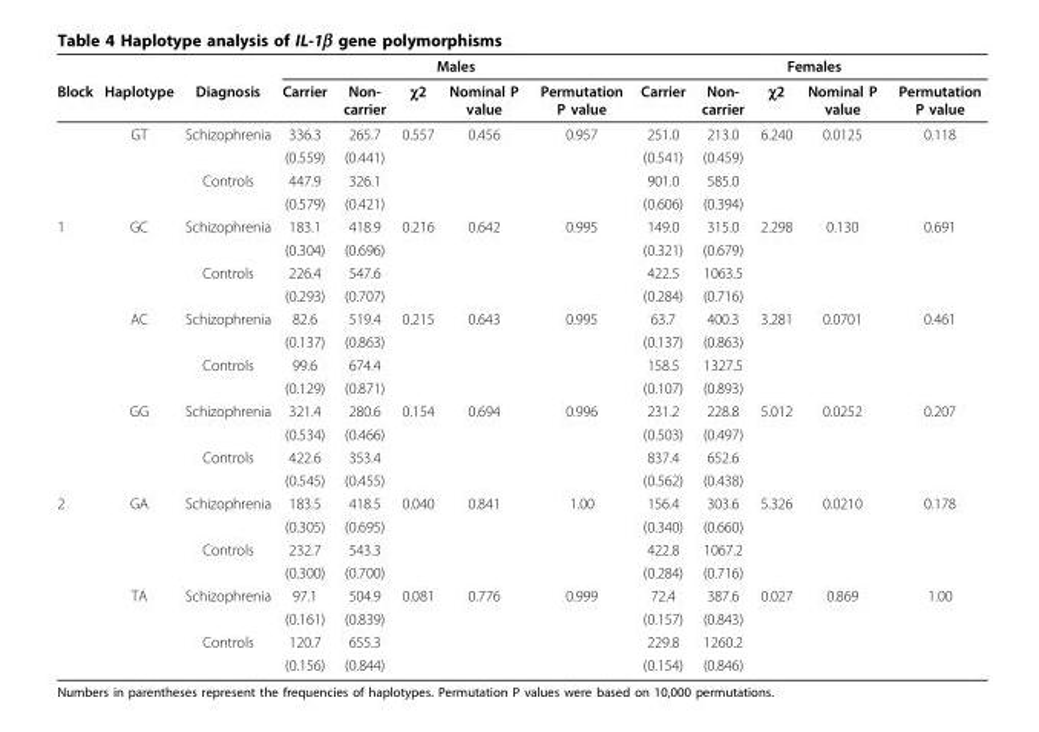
<table><thead><tr><td rowspan="2">Block</td><td rowspan="2">Haplotype</td><td rowspan="2">Diagnosis</td><td colspan="5">Males</td><td colspan="5">Females</td></tr><tr><td>Carrier</td><td>Non- carrier</td><td>χ2</td><td>Nominal P value</td><td>Permutation P value</td><td>Carrier</td><td>Non- carrier</td><td>χ2</td><td>Nominal P value</td><td>Permutation P value</td></tr></thead><tbody><tr><td></td><td>GT</td><td>Schizophrenia</td><td>336.3</td><td>265.7</td><td>0.557</td><td>0.456</td><td>0.957</td><td>251.0</td><td>213.0</td><td>6.240</td><td>0.0125</td><td>0.118</td></tr><tr><td></td><td></td><td></td><td>(0.559)</td><td>(0.441)</td><td></td><td></td><td></td><td>(0.541)</td><td>(0.459)</td><td></td><td></td><td></td></tr><tr><td></td><td></td><td>Controls</td><td>447.9</td><td>326.1</td><td></td><td></td><td></td><td>901.0</td><td>585.0</td><td></td><td></td><td></td></tr><tr><td></td><td></td><td></td><td>(0.579)</td><td>(0.421)</td><td></td><td></td><td></td><td>(0.606)</td><td>(0.394)</td><td></td><td></td><td></td></tr><tr><td rowspan="12">1</td><td>GC</td><td>Schizophrenia</td><td>183.1</td><td>418.9</td><td>0.216</td><td>0.642</td><td>0.995</td><td>149.0</td><td>315.0</td><td>2.298</td><td>0.130</td><td>0.691</td></tr><tr><td></td><td></td><td>(0.304)</td><td>(0.696)</td><td></td><td></td><td></td><td>(0.321)</td><td>(0.679)</td><td></td><td></td><td></td></tr><tr><td></td><td>Controls</td><td>226.4</td><td>547.6</td><td></td><td></td><td></td><td>422.5</td><td>1063.5</td><td></td><td></td><td></td></tr><tr><td></td><td></td><td>(0.293)</td><td>(0.707)</td><td></td><td></td><td></td><td>(0.284)</td><td>(0.716)</td><td></td><td></td><td></td></tr><tr><td>AC</td><td>Schizophrenia</td><td>82.6</td><td>519.4</td><td>0.215</td><td>0.643</td><td>0.995</td><td>63.7</td><td>400.3</td><td>3.281</td><td>0.0701</td><td>0.461</td></tr><tr><td></td><td></td><td>(0.137)</td><td>(0.863)</td><td></td><td></td><td></td><td>(0.137)</td><td>(0.863)</td><td></td><td></td><td></td></tr><tr><td></td><td>Controls</td><td>99.6</td><td>674.4</td><td></td><td></td><td></td><td>158.5</td><td>1327.5</td><td></td><td></td><td></td></tr><tr><td></td><td></td><td>(0.129)</td><td>(0.871)</td><td></td><td></td><td></td><td>(0.107)</td><td>(0.893)</td><td></td><td></td><td></td></tr><tr><td>GG</td><td>Schizophrenia</td><td>321.4</td><td>280.6</td><td>0.154</td><td>0.694</td><td>0.996</td><td>231.2</td><td>228.8</td><td>5.012</td><td>0.0252</td><td>0.207</td></tr><tr><td></td><td></td><td>(0.534)</td><td>(0.466)</td><td></td><td></td><td></td><td>(0.503)</td><td>(0.497)</td><td></td><td></td><td></td></tr><tr><td></td><td>Controls</td><td>422.6</td><td>353.4</td><td></td><td></td><td></td><td>837.4</td><td>652.6</td><td></td><td></td><td></td></tr><tr><td></td><td></td><td>(0.545)</td><td>(0.455)</td><td></td><td></td><td></td><td>(0.562)</td><td>(0.438)</td><td></td><td></td><td></td></tr><tr><td rowspan="8">2</td><td>GA</td><td>Schizophrenia</td><td>183.5</td><td>418.5</td><td>0.040</td><td>0.841</td><td>1.00</td><td>156.4</td><td>303.6</td><td>5.326</td><td>0.0210</td><td>0.178</td></tr><tr><td></td><td></td><td>(0.305)</td><td>(0.695)</td><td></td><td></td><td></td><td>(0.340)</td><td>(0.660)</td><td></td><td></td><td></td></tr><tr><td></td><td>Controls</td><td>232.7</td><td>543.3</td><td></td><td></td><td></td><td>422.8</td><td>1067.2</td><td></td><td></td><td></td></tr><tr><td></td><td></td><td>(0.300)</td><td>(0.700)</td><td></td><td></td><td></td><td>(0.284)</td><td>(0.716)</td><td></td><td></td><td></td></tr><tr><td>TA</td><td>Schizophrenia</td><td>97.1</td><td>504.9</td><td>0.081</td><td>0.776</td><td>0.999</td><td>72.4</td><td>387.6</td><td>0.027</td><td>0.869</td><td>1.00</td></tr><tr><td></td><td></td><td>(0.161)</td><td>(0.839)</td><td></td><td></td><td></td><td>(0.157)</td><td>(0.843)</td><td></td><td></td><td></td></tr><tr><td></td><td>Controls</td><td>120.7</td><td>655.3</td><td></td><td></td><td></td><td>229.8</td><td>1260.2</td><td></td><td></td><td></td></tr><tr><td></td><td></td><td>(0.156)</td><td>(0.844)</td><td></td><td></td><td></td><td>(0.154)</td><td>(0.846)</td><td></td><td></td><td></td></tr></tbody></table>